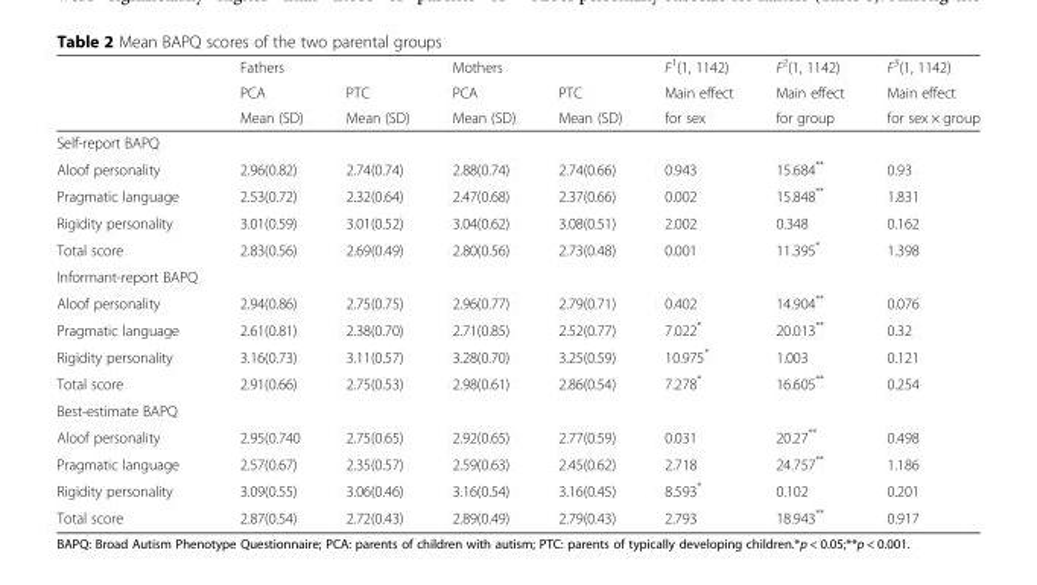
<table><thead><tr><td rowspan="3"></td><td rowspan="3">Fathers PCA Mean (SD)</td><td rowspan="3">PTC Mean (SD)</td><td rowspan="3">Mothers PCA Mean (SD)</td><td rowspan="3">PTC Mean (SD)</td><td rowspan="3">F<sup>1</sup>(1, 1142) Main effect for sex</td><td rowspan="3">F<sup>2</sup>(1, 1142) Main effect for group</td><td rowspan="3">F<sup>3</sup>(1, 1142) Main effect for sex × group</td></tr><tr></tr><tr></tr></thead><tbody><tr><td colspan="8">Self-report BAPQ</td></tr><tr><td>Aloof personality</td><td>2.96(0.82)</td><td>2.74(0.74)</td><td>2.88(0.74)</td><td>2.74(0.66)</td><td>0.943</td><td>15.684**</td><td>0.93</td></tr><tr><td>Pragmatic language</td><td>2.53(0.72)</td><td>2.32(0.64)</td><td>2.47(0.68)</td><td>2.37(0.66)</td><td>0.002</td><td>15.848**</td><td>1.831</td></tr><tr><td>Rigidity personality</td><td>3.01(0.59)</td><td>3.01(0.52)</td><td>3.04(0.62)</td><td>3.08(0.51)</td><td>2.002</td><td>0.348</td><td>0.162</td></tr><tr><td>Total score</td><td>2.83(0.56)</td><td>2.69(0.49)</td><td>2.80(0.56)</td><td>2.73(0.48)</td><td>0.001</td><td>11.395*</td><td>1.398</td></tr><tr><td colspan="8">Informant-report BAPQ</td></tr><tr><td>Aloof personality</td><td>2.94(0.86)</td><td>2.75(0.75)</td><td>2.96(0.77)</td><td>2.79(0.71)</td><td>0.402</td><td>14.904**</td><td>0.076</td></tr><tr><td>Pragmatic language</td><td>2.61(0.81)</td><td>2.38(0.70)</td><td>2.71(0.85)</td><td>2.52(0.77)</td><td>7.022*</td><td>20.013**</td><td>0.32</td></tr><tr><td>Rigidity personality</td><td>3.16(0.73)</td><td>3.11(0.57)</td><td>3.28(0.70)</td><td>3.25(0.59)</td><td>10.975*</td><td>1.003</td><td>0.121</td></tr><tr><td>Total score</td><td>2.91(0.66)</td><td>2.75(0.53)</td><td>2.98(0.61)</td><td>2.86(0.54)</td><td>7.278*</td><td>16.605**</td><td>0.254</td></tr><tr><td colspan="8">Best-estimate BAPQ</td></tr><tr><td>Aloof personality</td><td>2.95(0.740</td><td>2.75(0.65)</td><td>2.92(0.65)</td><td>2.77(0.59)</td><td>0.031</td><td>20.27**</td><td>0.498</td></tr><tr><td>Pragmatic language</td><td>2.57(0.67)</td><td>2.35(0.57)</td><td>2.59(0.63)</td><td>2.45(0.62)</td><td>2.718</td><td>24.757**</td><td>1.186</td></tr><tr><td>Rigidity personality</td><td>3.09(0.55)</td><td>3.06(0.46)</td><td>3.16(0.54)</td><td>3.16(0.45)</td><td>8.593*</td><td>0.102</td><td>0.201</td></tr><tr><td>Total score</td><td>2.87(0.54)</td><td>2.72(0.43)</td><td>2.89(0.49)</td><td>2.79(0.43)</td><td>2.793</td><td>18.943**</td><td>0.917</td></tr></tbody></table>